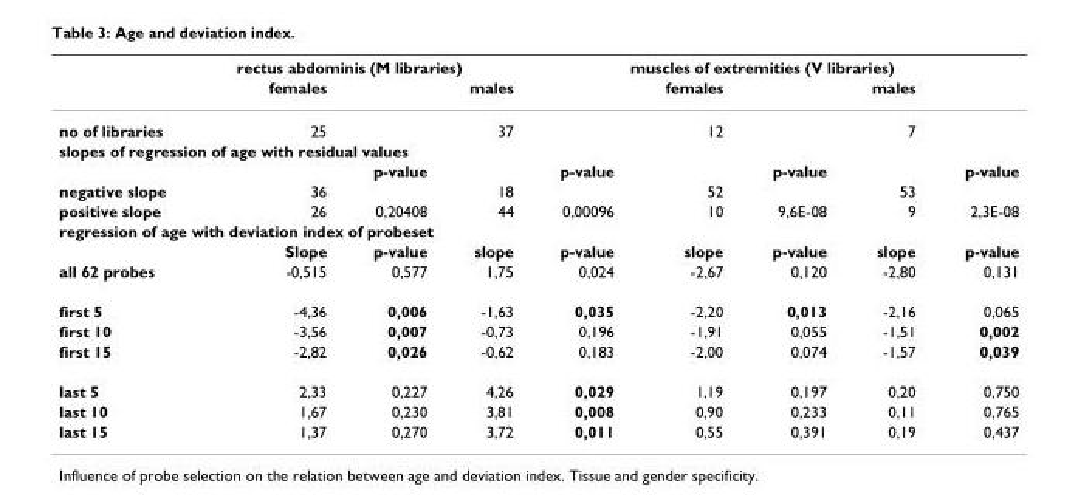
<table><thead><tr><td rowspan="2"></td><td colspan="4">rectus abdominis (M libraries)</td><td colspan="4">muscles of extremities (V libraries)</td></tr><tr><td>females</td><td></td><td>males</td><td></td><td>females</td><td></td><td>males</td><td></td></tr></thead><tbody><tr><td>no of libraries</td><td>25</td><td></td><td>37</td><td></td><td>12</td><td></td><td>7</td><td></td></tr><tr><td colspan="9">slopes of regression of age with residual values</td></tr><tr><td></td><td colspan="2">p-value</td><td colspan="2">p-value</td><td colspan="2">p-value</td><td colspan="2">p-value</td></tr><tr><td>negative slope</td><td>36</td><td></td><td>18</td><td></td><td>52</td><td></td><td>53</td><td></td></tr><tr><td>positive slope</td><td>26</td><td>0,20408</td><td>44</td><td>0,00096</td><td>10</td><td>9,6E-08</td><td>9</td><td>2,3E-08</td></tr><tr><td colspan="9">regression of age with deviation index of probeset</td></tr><tr><td></td><td>Slope</td><td>p-value</td><td>slope</td><td>p-value</td><td>slope</td><td>p-value</td><td>slope</td><td>p-value</td></tr><tr><td>all 62 probes</td><td>-0,515</td><td>0,577</td><td>1,75</td><td>0,024</td><td>-2,67</td><td>0,120</td><td>-2,80</td><td>0,131</td></tr><tr><td>first 5</td><td>-4,36</td><td>0,006</td><td>-1,63</td><td>0,035</td><td>-2,20</td><td>0,013</td><td>-2,16</td><td>0,065</td></tr><tr><td>first 10</td><td>-3,56</td><td>0,007</td><td>-0,73</td><td>0,196</td><td>-1,91</td><td>0,055</td><td>-1,51</td><td>0,002</td></tr><tr><td>first 15</td><td>-2,82</td><td>0,026</td><td>-0,62</td><td>0,183</td><td>-2,00</td><td>0,074</td><td>-1,57</td><td>0,039</td></tr><tr><td>last 5</td><td>2,33</td><td>0,227</td><td>4,26</td><td>0,029</td><td>1,19</td><td>0,197</td><td>0,20</td><td>0,750</td></tr><tr><td>last 10</td><td>1,67</td><td>0,230</td><td>3,81</td><td>0,008</td><td>0,90</td><td>0,233</td><td>0,11</td><td>0,765</td></tr><tr><td>last 15</td><td>1,37</td><td>0,270</td><td>3,72</td><td>0,011</td><td>0,55</td><td>0,391</td><td>0,19</td><td>0,437</td></tr></tbody></table>